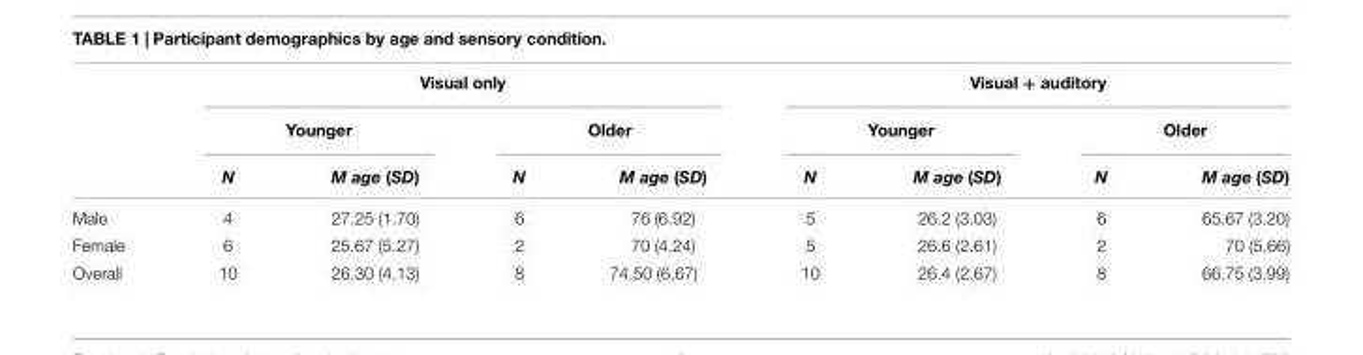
<table><thead><tr><td rowspan="3"></td><td colspan="4">Visual only</td><td colspan="4">Visual + auditory</td></tr><tr><td colspan="2">Younger</td><td colspan="2">Older</td><td colspan="2">Younger</td><td colspan="2">Older</td></tr><tr><td>N</td><td>M age (SD)</td><td>N</td><td>M age (SD)</td><td>N</td><td>M age (SD)</td><td>N</td><td>M age (SD)</td></tr></thead><tbody><tr><td>Male</td><td>4</td><td>27.25 (1.70)</td><td>6</td><td>76 (6.92)</td><td>5</td><td>26.2 (3.03)</td><td>6</td><td>65.67 (3.20)</td></tr><tr><td>Female</td><td>6</td><td>25.67 (5.27)</td><td>2</td><td>70 (4.24)</td><td>5</td><td>26.6 (2.61)</td><td>2</td><td>70 (5.66)</td></tr><tr><td>Overall</td><td>10</td><td>26.30 (4.13)</td><td>8</td><td>74.50 (6.67)</td><td>10</td><td>26.4 (2.67)</td><td>8</td><td>66.75 (3.99)</td></tr></tbody></table>